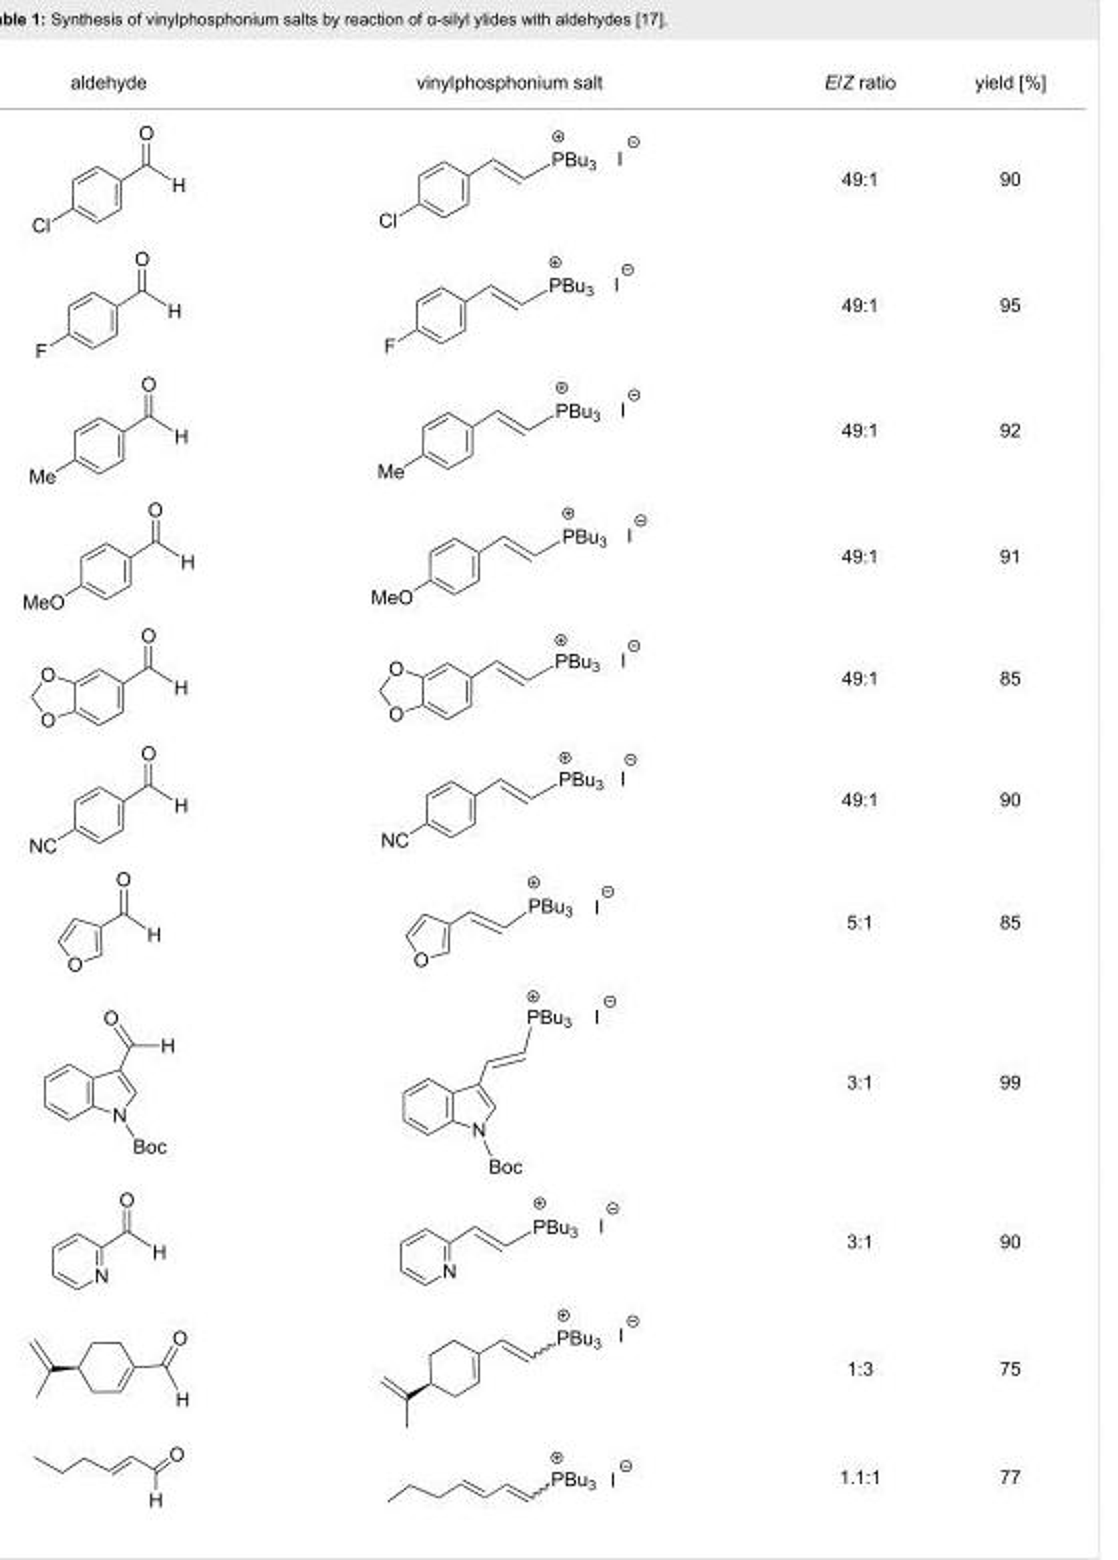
<table><tbody><tr><td rowspan="12">aldehyde</td><td>vinylphosphonium salt</td><td>E/Z ratio</td><td>yield [%]</td></tr><tr><td></td><td>49:1</td><td>90</td></tr><tr><td></td><td>49:1</td><td>95</td></tr><tr><td></td><td>49:1</td><td>92</td></tr><tr><td></td><td>49:1</td><td>91</td></tr><tr><td></td><td>49:1</td><td>85</td></tr><tr><td></td><td>49:1</td><td>90</td></tr><tr><td></td><td>5:1</td><td>85</td></tr><tr><td></td><td>3:1</td><td>99</td></tr><tr><td></td><td>3:1</td><td>90</td></tr><tr><td></td><td>1:3</td><td>75</td></tr><tr><td></td><td>1.1:1</td><td>77</td></tr></tbody></table>